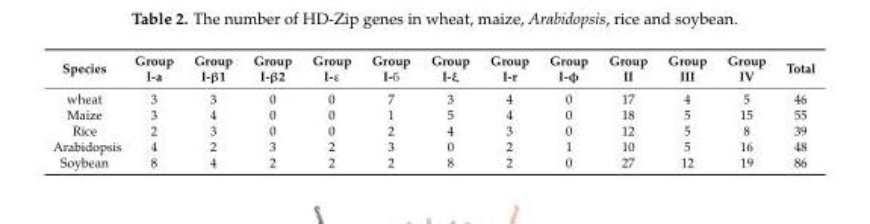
<table><thead><tr><td>Species</td><td>Group I-a</td><td>Group I-β1</td><td>Group I-β2</td><td>Group I-ε</td><td>Group I-б</td><td>Group I-ξ</td><td>Group I-r</td><td>Group I-φ</td><td>Group II</td><td>Group III</td><td>Group IV</td><td>Total</td></tr></thead><tbody><tr><td>wheat</td><td>3</td><td>3</td><td>0</td><td>0</td><td>7</td><td>3</td><td>4</td><td>0</td><td>17</td><td>4</td><td>5</td><td>46</td></tr><tr><td>Maize</td><td>3</td><td>4</td><td>0</td><td>0</td><td>1</td><td>5</td><td>4</td><td>0</td><td>18</td><td>5</td><td>15</td><td>55</td></tr><tr><td>Rice</td><td>2</td><td>3</td><td>0</td><td>0</td><td>2</td><td>4</td><td>3</td><td>0</td><td>12</td><td>5</td><td>8</td><td>39</td></tr><tr><td>Arabidopsis</td><td>4</td><td>2</td><td>3</td><td>2</td><td>3</td><td>0</td><td>2</td><td>1</td><td>10</td><td>5</td><td>16</td><td>48</td></tr><tr><td>Soybean</td><td>8</td><td>4</td><td>2</td><td>2</td><td>2</td><td>8</td><td>2</td><td>0</td><td>27</td><td>12</td><td>19</td><td>86</td></tr></tbody></table>